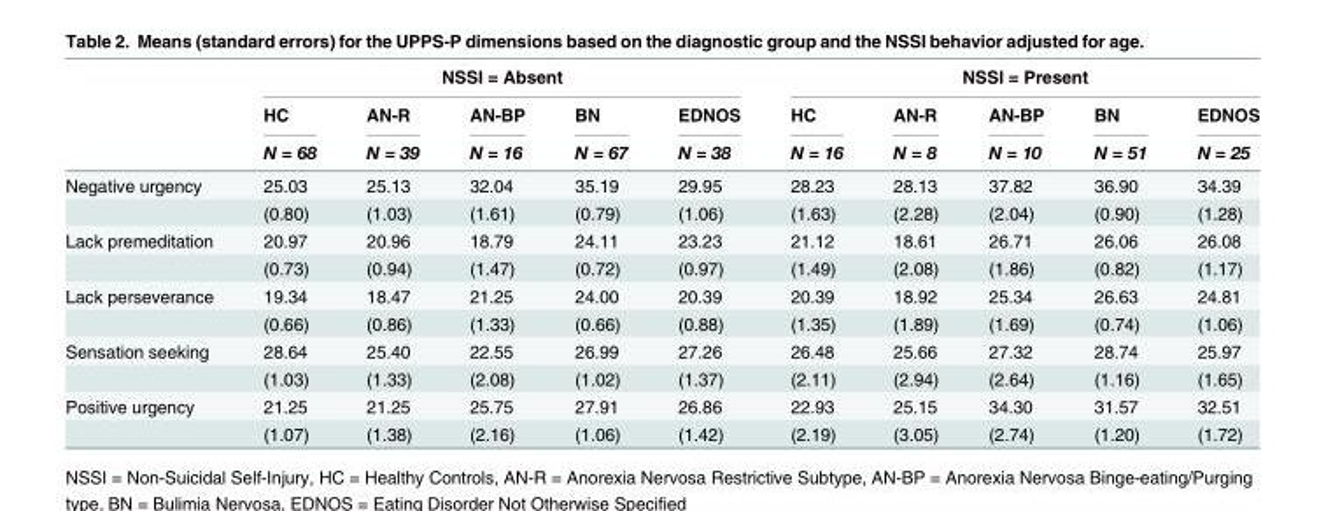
<table><thead><tr><td rowspan="3"></td><td colspan="5">NSSI = Absent</td><td colspan="5">NSSI = Present</td></tr><tr><td rowspan="2">HC N = 68</td><td rowspan="2">AN-R N = 39</td><td rowspan="2">AN-BP N = 16</td><td rowspan="2">BN N = 67</td><td rowspan="2">EDNOS N = 38</td><td rowspan="2">HC N = 16</td><td rowspan="2">AN-R N = 8</td><td rowspan="2">AN-BP N = 10</td><td rowspan="2">BN N = 51</td><td rowspan="2">EDNOS N = 25</td></tr><tr></tr></thead><tbody><tr><td rowspan="2">Negative urgency</td><td>25.03</td><td>25.13</td><td>32.04</td><td>35.19</td><td>29.95</td><td>28.23</td><td>28.13</td><td>37.82</td><td>36.90</td><td>34.39</td></tr><tr><td>(0.80)</td><td>(1.03)</td><td>(1.61)</td><td>(0.79)</td><td>(1.06)</td><td>(1.63)</td><td>(2.28)</td><td>(2.04)</td><td>(0.90)</td><td>(1.28)</td></tr><tr><td rowspan="2">Lack premeditation</td><td>20.97</td><td>20.96</td><td>18.79</td><td>24.11</td><td>23.23</td><td>21.12</td><td>18.61</td><td>26.71</td><td>26.06</td><td>26.08</td></tr><tr><td>(0.73)</td><td>(0.94)</td><td>(1.47)</td><td>(0.72)</td><td>(0.97)</td><td>(1.49)</td><td>(2.08)</td><td>(1.86)</td><td>(0.82)</td><td>(1.17)</td></tr><tr><td rowspan="2">Lack perseverance</td><td>19.34</td><td>18.47</td><td>21.25</td><td>24.00</td><td>20.39</td><td>20.39</td><td>18.92</td><td>25.34</td><td>26.63</td><td>24.81</td></tr><tr><td>(0.66)</td><td>(0.86)</td><td>(1.33)</td><td>(0.66)</td><td>(0.88)</td><td>(1.35)</td><td>(1.89)</td><td>(1.69)</td><td>(0.74)</td><td>(1.06)</td></tr><tr><td rowspan="2">Sensation seeking</td><td>28.64</td><td>25.40</td><td>22.55</td><td>26.99</td><td>27.26</td><td>26.48</td><td>25.66</td><td>27.32</td><td>28.74</td><td>25.97</td></tr><tr><td>(1.03)</td><td>(1.33)</td><td>(2.08)</td><td>(1.02)</td><td>(1.37)</td><td>(2.11)</td><td>(2.94)</td><td>(2.64)</td><td>(1.16)</td><td>(1.65)</td></tr><tr><td rowspan="2">Positive urgency</td><td>21.25</td><td>21.25</td><td>25.75</td><td>27.91</td><td>26.86</td><td>22.93</td><td>25.15</td><td>34.30</td><td>31.57</td><td>32.51</td></tr><tr><td>(1.07)</td><td>(1.38)</td><td>(2.16)</td><td>(1.06)</td><td>(1.42)</td><td>(2.19)</td><td>(3.05)</td><td>(2.74)</td><td>(1.20)</td><td>(1.72)</td></tr></tbody></table>